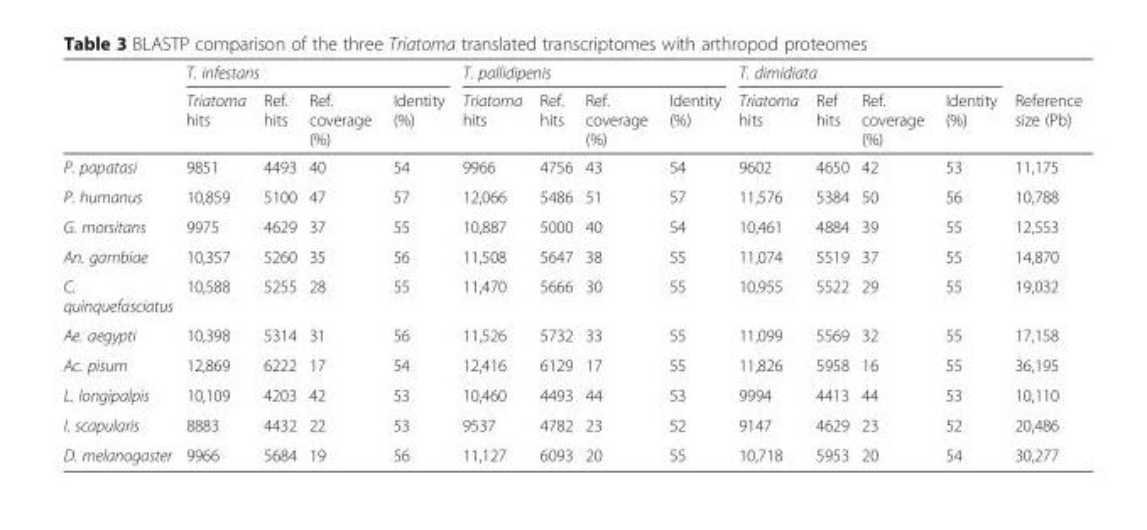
<table><thead><tr><td rowspan="2"></td><td colspan="4">T. infestans</td><td colspan="4">T. pallidipenis</td><td colspan="4">T. dimidiata</td><td rowspan="2">Reference size (Pb)</td></tr><tr><td>Triatoma hits</td><td>Ref. hits</td><td>Ref. coverage (%)</td><td>Identity (%)</td><td>Triatoma hits</td><td>Ref. hits</td><td>Ref. coverage (%)</td><td>Identity (%)</td><td>Triatoma hits</td><td>Ref hits</td><td>Ref. coverage (%)</td><td>Identity (%)</td></tr></thead><tbody><tr><td>P. papatasi</td><td>9851</td><td>4493</td><td>40</td><td>54</td><td>9966</td><td>4756</td><td>43</td><td>54</td><td>9602</td><td>4650</td><td>42</td><td>53</td><td>11,175</td></tr><tr><td>P. humanus</td><td>10,859</td><td>5100</td><td>47</td><td>57</td><td>12,066</td><td>5486</td><td>51</td><td>57</td><td>11,576</td><td>5384</td><td>50</td><td>56</td><td>10,788</td></tr><tr><td>G. morsitans</td><td>9975</td><td>4629</td><td>37</td><td>55</td><td>10,887</td><td>5000</td><td>40</td><td>54</td><td>10,461</td><td>4884</td><td>39</td><td>55</td><td>12,553</td></tr><tr><td>An. gambiae</td><td>10,357</td><td>5260</td><td>35</td><td>56</td><td>11,508</td><td>5647</td><td>38</td><td>55</td><td>11,074</td><td>5519</td><td>37</td><td>55</td><td>14,870</td></tr><tr><td>C. quinquefasciatus</td><td>10,588</td><td>5255</td><td>28</td><td>55</td><td>11,470</td><td>5666</td><td>30</td><td>55</td><td>10,955</td><td>5522</td><td>29</td><td>55</td><td>19,032</td></tr><tr><td>Ae. aegypti</td><td>10,398</td><td>5314</td><td>31</td><td>56</td><td>11,526</td><td>5732</td><td>33</td><td>55</td><td>11,099</td><td>5569</td><td>32</td><td>55</td><td>17,158</td></tr><tr><td>Ac. pisum</td><td>12,869</td><td>6222</td><td>17</td><td>54</td><td>12,416</td><td>6129</td><td>17</td><td>55</td><td>11,826</td><td>5958</td><td>16</td><td>55</td><td>36,195</td></tr><tr><td>L. longipalpis</td><td>10,109</td><td>4203</td><td>42</td><td>53</td><td>10,460</td><td>4493</td><td>44</td><td>53</td><td>9994</td><td>4413</td><td>44</td><td>53</td><td>10,110</td></tr><tr><td>I. scapularis</td><td>8883</td><td>4432</td><td>22</td><td>53</td><td>9537</td><td>4782</td><td>23</td><td>52</td><td>9147</td><td>4629</td><td>23</td><td>52</td><td>20,486</td></tr><tr><td>D. melanogaster</td><td>9966</td><td>5684</td><td>19</td><td>56</td><td>11,127</td><td>6093</td><td>20</td><td>55</td><td>10,718</td><td>5953</td><td>20</td><td>54</td><td>30,277</td></tr></tbody></table>